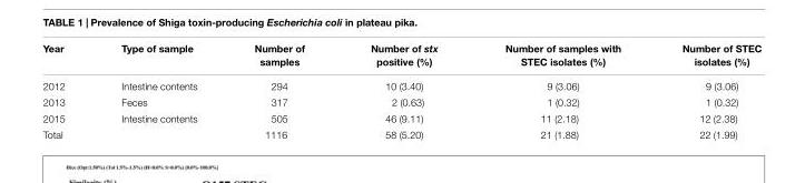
<table><thead><tr><td>Year</td><td>Type of sample</td><td>Number of samples</td><td>Number of stx positive (%)</td><td>Number of samples with STEC isolates (%)</td><td>Number of STEC isolates (%)</td></tr></thead><tbody><tr><td>2012</td><td>Intestine contents</td><td>294</td><td>10 (3.40)</td><td>9 (3.06)</td><td>9 (3.06)</td></tr><tr><td>2013</td><td>Feces</td><td>317</td><td>2 (0.63)</td><td>1 (0.32)</td><td>1 (0.32)</td></tr><tr><td>2015</td><td>Intestine contents</td><td>505</td><td>46 (9.11)</td><td>11 (2.18)</td><td>12 (2.38)</td></tr><tr><td>Total</td><td></td><td>1116</td><td>58 (5.20)</td><td>21 (1.88)</td><td>22 (1.99)</td></tr></tbody></table>